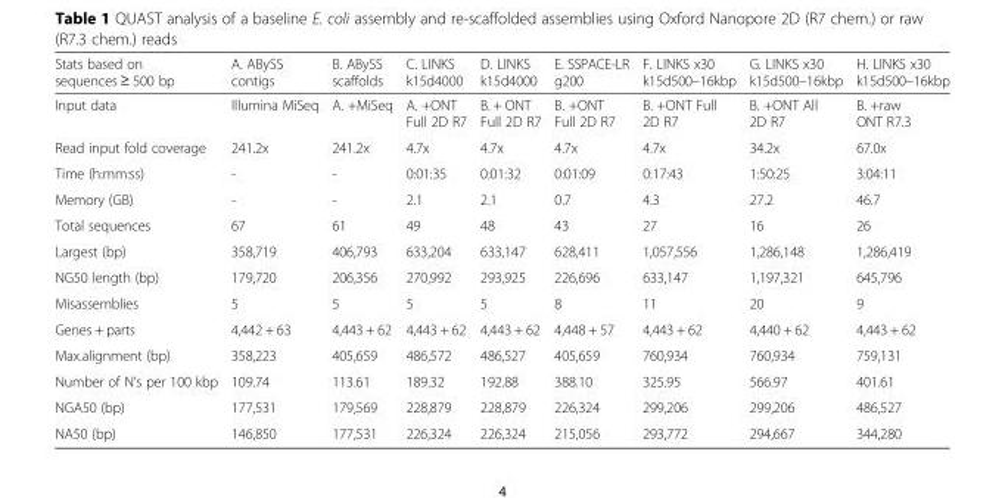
<table><thead><tr><td>Stats based on sequences ≥ 500 bp</td><td>A. ABySS contigs</td><td>B. ABySS scaffolds</td><td>C. LINKS k15d4000</td><td>D. LINKS k15d4000</td><td>E. SSPACE-LR g200</td><td>F. LINKS x30 k15d500–16kbp</td><td>G. LINKS x30 k15d500–16kbp</td><td>H. LINKS x30 k15d500–16kbp</td></tr></thead><tbody><tr><td>Input data</td><td>Illumina MiSeq</td><td>A. +MiSeq</td><td>A. +ONT Full 2D R7</td><td>B. + ONT Full 2D R7</td><td>B. +ONT Full 2D R7</td><td>B. +ONT Full 2D R7</td><td>B. +ONT All 2D R7</td><td>B. +raw ONT R7.3</td></tr><tr><td>Read input fold coverage</td><td>241.2x</td><td>241.2x</td><td>4.7x</td><td>4.7x</td><td>4.7x</td><td>4.7x</td><td>34.2x</td><td>67.0x</td></tr><tr><td>Time (h:mm:ss)</td><td>-</td><td>-</td><td>0:01:35</td><td>0:01:32</td><td>0:01:09</td><td>0:17:43</td><td>1:50:25</td><td>3:04:11</td></tr><tr><td>Memory (GB)</td><td>-</td><td>-</td><td>2.1</td><td>2.1</td><td>0.7</td><td>4.3</td><td>27.2</td><td>46.7</td></tr><tr><td>Total sequences</td><td>67</td><td>61</td><td>49</td><td>48</td><td>43</td><td>27</td><td>16</td><td>26</td></tr><tr><td>Largest (bp)</td><td>358,719</td><td>406,793</td><td>633,204</td><td>633,147</td><td>628,411</td><td>1,057,556</td><td>1,286,148</td><td>1,286,419</td></tr><tr><td>NG50 length (bp)</td><td>179,720</td><td>206,356</td><td>270,992</td><td>293,925</td><td>226,696</td><td>633,147</td><td>1,197,321</td><td>645,796</td></tr><tr><td>Misassemblies</td><td>5</td><td>5</td><td>5</td><td>5</td><td>8</td><td>11</td><td>20</td><td>9</td></tr><tr><td>Genes + parts</td><td>4,442 + 63</td><td>4,443 + 62</td><td>4,443 + 62</td><td>4,443 + 62</td><td>4,448 + 57</td><td>4,443 + 62</td><td>4,440 + 62</td><td>4,443 + 62</td></tr><tr><td>Max.alignment (bp)</td><td>358,223</td><td>405,659</td><td>486,572</td><td>486,527</td><td>405,659</td><td>760,934</td><td>760,934</td><td>759,131</td></tr><tr><td>Number of N’s per 100 kbp</td><td>109.74</td><td>113.61</td><td>189.32</td><td>192.88</td><td>388.10</td><td>325.95</td><td>566.97</td><td>401.61</td></tr><tr><td>NGA50 (bp)</td><td>177,531</td><td>179,569</td><td>228,879</td><td>228,879</td><td>226,324</td><td>299,206</td><td>299,206</td><td>486,527</td></tr><tr><td>NA50 (bp)</td><td>146,850</td><td>177,531</td><td>226,324</td><td>226,324</td><td>215,056</td><td>293,772</td><td>294,667</td><td>344,280</td></tr></tbody></table>